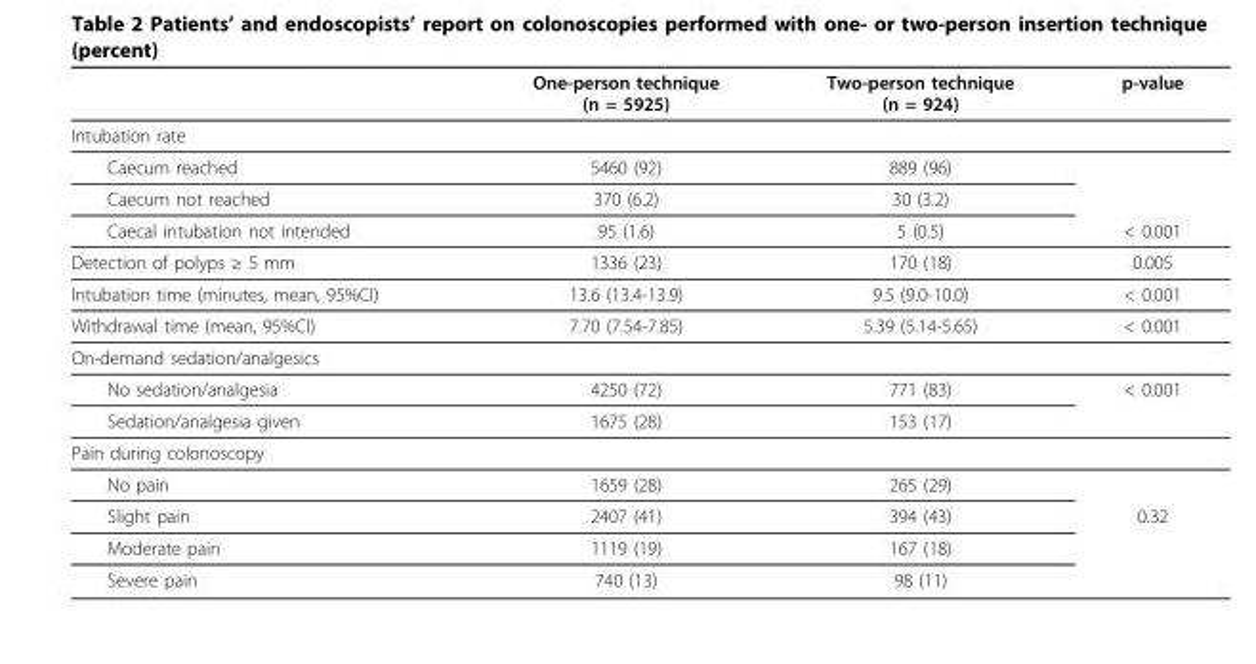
<table><thead><tr><td></td><td>One-person technique (n = 5925)</td><td>Two-person technique (n = 924)</td><td>p-value</td></tr></thead><tbody><tr><td colspan="4">Intubation rate</td></tr><tr><td>Caecum reached</td><td>5460 (92)</td><td>889 (96)</td><td></td></tr><tr><td>Caecum not reached</td><td>370 (6.2)</td><td>30 (3.2)</td><td></td></tr><tr><td>Caecal intubation not intended</td><td>95 (1.6)</td><td>5 (0.5)</td><td>&lt; 0.001</td></tr><tr><td>Detection of polyps ≥ 5 mm</td><td>1336 (23)</td><td>170 (18)</td><td>0.005</td></tr><tr><td>Intubation time (minutes, mean, 95%CI)</td><td>13.6 (13.4-13.9)</td><td>9.5 (9.0-10.0)</td><td>&lt; 0.001</td></tr><tr><td>Withdrawal time (mean, 95%CI)</td><td>7.70 (7.54-7.85)</td><td>5.39 (5.14-5.65)</td><td>&lt; 0.001</td></tr><tr><td colspan="4">On-demand sedation/analgesics</td></tr><tr><td>No sedation/analgesia</td><td>4250 (72)</td><td>771 (83)</td><td>&lt; 0.001</td></tr><tr><td>Sedation/analgesia given</td><td>1675 (28)</td><td>153 (17)</td><td></td></tr><tr><td colspan="4">Pain during colonoscopy</td></tr><tr><td>No pain</td><td>1659 (28)</td><td>265 (29)</td><td></td></tr><tr><td>Slight pain</td><td>2407 (41)</td><td>394 (43)</td><td>0.32</td></tr><tr><td>Moderate pain</td><td>1119 (19)</td><td>167 (18)</td><td></td></tr><tr><td>Severe pain</td><td>740 (13)</td><td>98 (11)</td><td></td></tr></tbody></table>